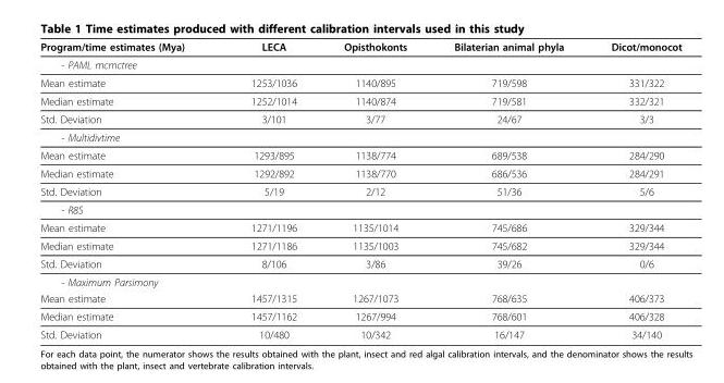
<table><thead><tr><td>Program/time estimates (Mya)</td><td>LECA</td><td>Opisthokonts</td><td>Bilaterian animal phyla</td><td>Dicot/monocot</td></tr></thead><tbody><tr><td colspan="5">- PAML mcmctree</td></tr><tr><td>Mean estimate</td><td>1253/1036</td><td>1140/895</td><td>719/598</td><td>331/322</td></tr><tr><td>Median estimate</td><td>1252/1014</td><td>1140/874</td><td>719/581</td><td>332/321</td></tr><tr><td>Std. Deviation</td><td>3/101</td><td>3/77</td><td>24/67</td><td>3/3</td></tr><tr><td colspan="5">- Multidivtime</td></tr><tr><td>Mean estimate</td><td>1293/895</td><td>1138/774</td><td>689/538</td><td>284/290</td></tr><tr><td>Median estimate</td><td>1292/892</td><td>1138/770</td><td>686/536</td><td>284/291</td></tr><tr><td>Std. Deviation</td><td>5/19</td><td>2/12</td><td>51/36</td><td>5/6</td></tr><tr><td colspan="5">- R8S</td></tr><tr><td>Mean estimate</td><td>1271/1196</td><td>1135/1014</td><td>745/686</td><td>329/344</td></tr><tr><td>Median estimate</td><td>1271/1186</td><td>1135/1003</td><td>745/682</td><td>329/344</td></tr><tr><td>Std. Deviation</td><td>8/106</td><td>3/86</td><td>39/26</td><td>0/6</td></tr><tr><td colspan="5">- Maximum Parsimony</td></tr><tr><td>Mean estimate</td><td>1457/1315</td><td>1267/1073</td><td>768/635</td><td>406/373</td></tr><tr><td>Median estimate</td><td>1457/1162</td><td>1267/994</td><td>768/601</td><td>406/328</td></tr><tr><td>Std. Deviation</td><td>10/480</td><td>10/342</td><td>16/147</td><td>34/140</td></tr></tbody></table>